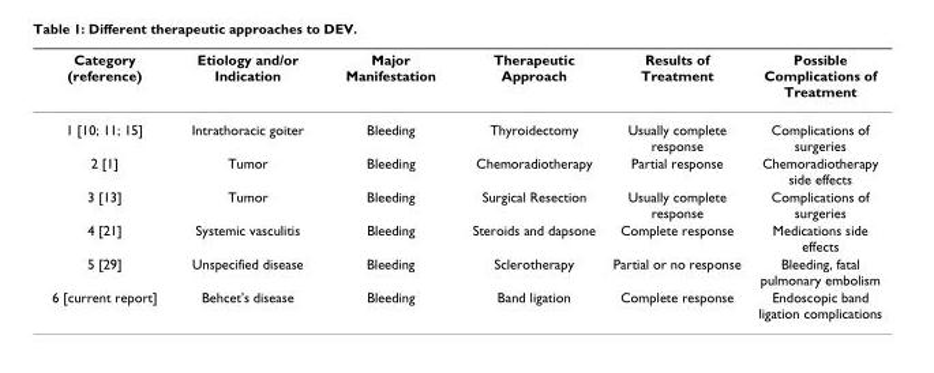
<table><thead><tr><td>Category (reference)</td><td>Etiology and/or Indication</td><td>Major Manifestation</td><td>Therapeutic Approach</td><td>Results of Treatment</td><td>Possible Complications of Treatment</td></tr></thead><tbody><tr><td>1 [10; 11; 15]</td><td>Intrathoracic goiter</td><td>Bleeding</td><td>Thyroidectomy</td><td>Usually complete response</td><td>Complications of surgeries</td></tr><tr><td>2 [1]</td><td>Tumor</td><td>Bleeding</td><td>Chemoradiotherapy</td><td>Partial response</td><td>Chemoradiotherapy side effects</td></tr><tr><td>3 [13]</td><td>Tumor</td><td>Bleeding</td><td>Surgical Resection</td><td>Usually complete response</td><td>Complications of surgeries</td></tr><tr><td>4 [21]</td><td>Systemic vasculitis</td><td>Bleeding</td><td>Steroids and dapsone</td><td>Complete response</td><td>Medications side effects</td></tr><tr><td>5 [29]</td><td>Unspecified disease</td><td>Bleeding</td><td>Sclerotherapy</td><td>Partial or no response</td><td>Bleeding, fatal pulmonary embolism</td></tr><tr><td>6 [current report]</td><td>Behcet&#x27;s disease</td><td>Bleeding</td><td>Band ligation</td><td>Complete response</td><td>Endoscopic band ligation complications</td></tr></tbody></table>